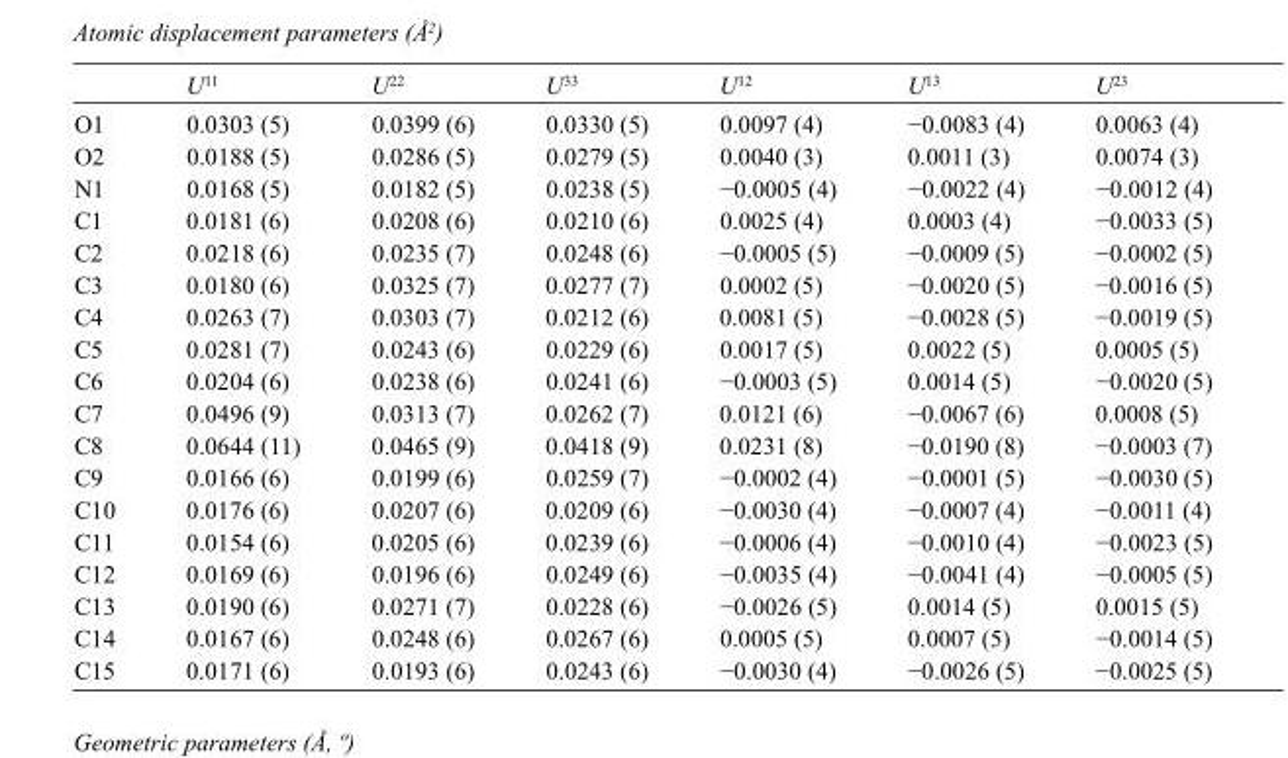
<table><thead><tr><td></td><td>U<sup>11</sup></td><td>U<sup>22</sup></td><td>U<sup>33</sup></td><td>U<sup>12</sup></td><td>U<sup>13</sup></td><td>U<sup>23</sup></td></tr></thead><tbody><tr><td>O1</td><td>0.0303 (5)</td><td>0.0399 (6)</td><td>0.0330 (5)</td><td>0.0097 (4)</td><td>−0.0083 (4)</td><td>0.0063 (4)</td></tr><tr><td>O2</td><td>0.0188 (5)</td><td>0.0286 (5)</td><td>0.0279 (5)</td><td>0.0040 (3)</td><td>0.0011 (3)</td><td>0.0074 (3)</td></tr><tr><td>N1</td><td>0.0168 (5)</td><td>0.0182 (5)</td><td>0.0238 (5)</td><td>−0.0005 (4)</td><td>−0.0022 (4)</td><td>−0.0012 (4)</td></tr><tr><td>C1</td><td>0.0181 (6)</td><td>0.0208 (6)</td><td>0.0210 (6)</td><td>0.0025 (4)</td><td>0.0003 (4)</td><td>−0.0033 (5)</td></tr><tr><td>C2</td><td>0.0218 (6)</td><td>0.0235 (7)</td><td>0.0248 (6)</td><td>−0.0005 (5)</td><td>−0.0009 (5)</td><td>−0.0002 (5)</td></tr><tr><td>C3</td><td>0.0180 (6)</td><td>0.0325 (7)</td><td>0.0277 (7)</td><td>0.0002 (5)</td><td>−0.0020 (5)</td><td>−0.0016 (5)</td></tr><tr><td>C4</td><td>0.0263 (7)</td><td>0.0303 (7)</td><td>0.0212 (6)</td><td>0.0081 (5)</td><td>−0.0028 (5)</td><td>−0.0019 (5)</td></tr><tr><td>C5</td><td>0.0281 (7)</td><td>0.0243 (6)</td><td>0.0229 (6)</td><td>0.0017 (5)</td><td>0.0022 (5)</td><td>0.0005 (5)</td></tr><tr><td>C6</td><td>0.0204 (6)</td><td>0.0238 (6)</td><td>0.0241 (6)</td><td>−0.0003 (5)</td><td>0.0014 (5)</td><td>−0.0020 (5)</td></tr><tr><td>C7</td><td>0.0496 (9)</td><td>0.0313 (7)</td><td>0.0262 (7)</td><td>0.0121 (6)</td><td>−0.0067 (6)</td><td>0.0008 (5)</td></tr><tr><td>C8</td><td>0.0644 (11)</td><td>0.0465 (9)</td><td>0.0418 (9)</td><td>0.0231 (8)</td><td>−0.0190 (8)</td><td>−0.0003 (7)</td></tr><tr><td>C9</td><td>0.0166 (6)</td><td>0.0199 (6)</td><td>0.0259 (7)</td><td>−0.0002 (4)</td><td>−0.0001 (5)</td><td>−0.0030 (5)</td></tr><tr><td>C10</td><td>0.0176 (6)</td><td>0.0207 (6)</td><td>0.0209 (6)</td><td>−0.0030 (4)</td><td>−0.0007 (4)</td><td>−0.0011 (4)</td></tr><tr><td>C11</td><td>0.0154 (6)</td><td>0.0205 (6)</td><td>0.0239 (6)</td><td>−0.0006 (4)</td><td>−0.0010 (4)</td><td>−0.0023 (5)</td></tr><tr><td>C12</td><td>0.0169 (6)</td><td>0.0196 (6)</td><td>0.0249 (6)</td><td>−0.0035 (4)</td><td>−0.0041 (4)</td><td>−0.0005 (5)</td></tr><tr><td>C13</td><td>0.0190 (6)</td><td>0.0271 (7)</td><td>0.0228 (6)</td><td>−0.0026 (5)</td><td>0.0014 (5)</td><td>0.0015 (5)</td></tr><tr><td>C14</td><td>0.0167 (6)</td><td>0.0248 (6)</td><td>0.0267 (6)</td><td>0.0005 (5)</td><td>0.0007 (5)</td><td>−0.0014 (5)</td></tr><tr><td>C15</td><td>0.0171 (6)</td><td>0.0193 (6)</td><td>0.0243 (6)</td><td>−0.0030 (4)</td><td>−0.0026 (5)</td><td>−0.0025 (5)</td></tr></tbody></table>